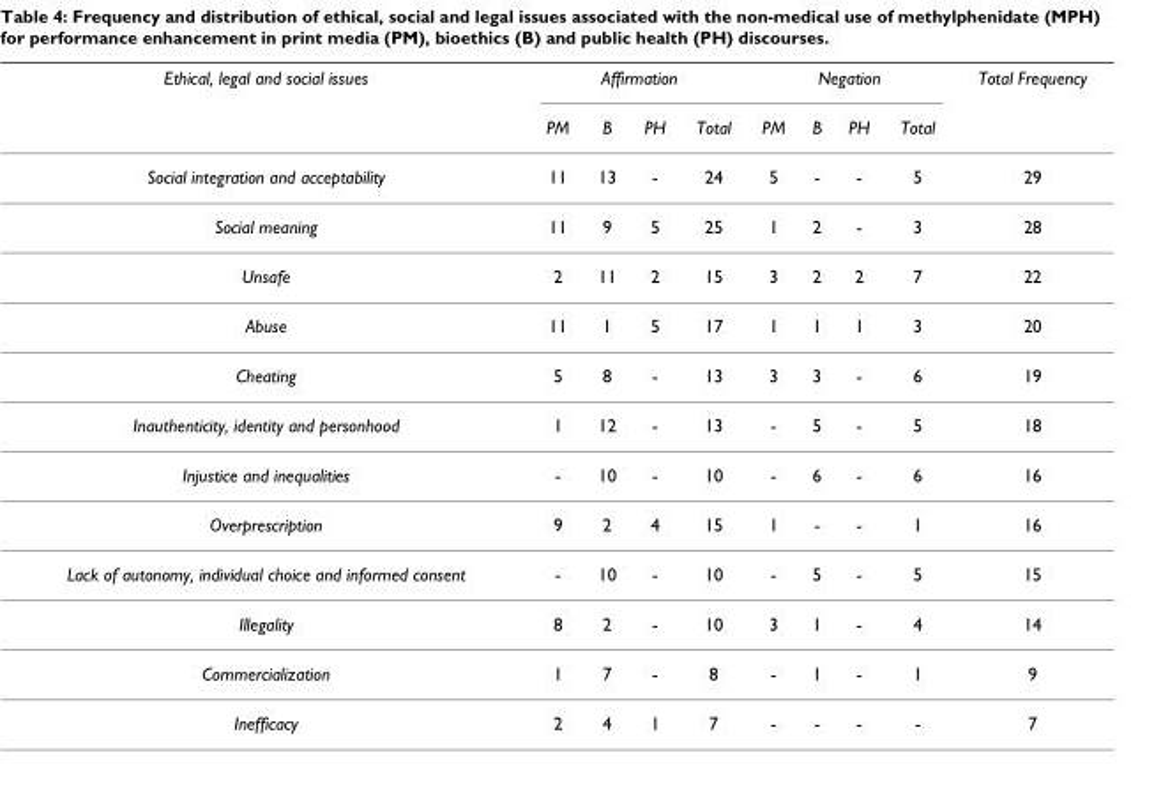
<table><thead><tr><td rowspan="2">Ethical, legal and social issues</td><td colspan="4">Affirmation</td><td colspan="4">Negation</td><td rowspan="2">Total Frequency</td></tr><tr><td>PM</td><td>B</td><td>PH</td><td>Total</td><td>PM</td><td>B</td><td>PH</td><td>Total</td></tr></thead><tbody><tr><td>Social integration and acceptability</td><td>11</td><td>13</td><td>-</td><td>24</td><td>5</td><td>-</td><td>-</td><td>5</td><td>29</td></tr><tr><td>Social meaning</td><td>11</td><td>9</td><td>5</td><td>25</td><td>1</td><td>2</td><td>-</td><td>3</td><td>28</td></tr><tr><td>Unsafe</td><td>2</td><td>11</td><td>2</td><td>15</td><td>3</td><td>2</td><td>2</td><td>7</td><td>22</td></tr><tr><td>Abuse</td><td>11</td><td>1</td><td>5</td><td>17</td><td>1</td><td>1</td><td>1</td><td>3</td><td>20</td></tr><tr><td>Cheating</td><td>5</td><td>8</td><td>-</td><td>13</td><td>3</td><td>3</td><td>-</td><td>6</td><td>19</td></tr><tr><td>Inauthenticity, identity and personhood</td><td>1</td><td>12</td><td>-</td><td>13</td><td>-</td><td>5</td><td>-</td><td>5</td><td>18</td></tr><tr><td>Injustice and inequalities</td><td>-</td><td>10</td><td>-</td><td>10</td><td>-</td><td>6</td><td>-</td><td>6</td><td>16</td></tr><tr><td>Overprescription</td><td>9</td><td>2</td><td>4</td><td>15</td><td>1</td><td>-</td><td>-</td><td>1</td><td>16</td></tr><tr><td>Lack of autonomy, individual choice and informed consent</td><td>-</td><td>10</td><td>-</td><td>10</td><td>-</td><td>5</td><td>-</td><td>5</td><td>15</td></tr><tr><td>Illegality</td><td>8</td><td>2</td><td>-</td><td>10</td><td>3</td><td>1</td><td>-</td><td>4</td><td>14</td></tr><tr><td>Commercialization</td><td>1</td><td>7</td><td>-</td><td>8</td><td>-</td><td>1</td><td>-</td><td>1</td><td>9</td></tr><tr><td>Inefficacy</td><td>2</td><td>4</td><td>1</td><td>7</td><td>-</td><td>-</td><td>-</td><td>-</td><td>7</td></tr></tbody></table>